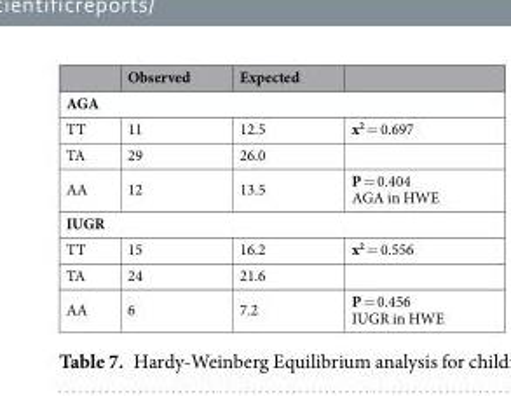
<table><thead><tr><td></td><td>Observed</td><td>Expected</td><td></td></tr></thead><tbody><tr><td colspan="4">AGA</td></tr><tr><td>TT</td><td>11</td><td>12.5</td><td>x<sup>2</sup> = 0.697</td></tr><tr><td>TA</td><td>29</td><td>26.0</td><td></td></tr><tr><td>AA</td><td>12</td><td>13.5</td><td>P = 0.404 AGA in HWE</td></tr><tr><td colspan="4">IUGR</td></tr><tr><td>TT</td><td>15</td><td>16.2</td><td>x<sup>2</sup> = 0.556</td></tr><tr><td>TA</td><td>24</td><td>21.6</td><td></td></tr><tr><td>AA</td><td>6</td><td>7.2</td><td>P = 0.456 IUGR in HWE</td></tr></tbody></table>